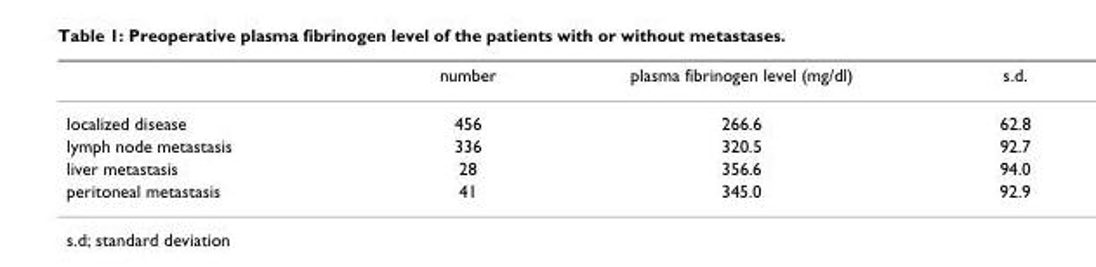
<table><thead><tr><td></td><td>number</td><td>plasma fibrinogen level (mg/dl)</td><td>s.d.</td></tr></thead><tbody><tr><td>localized disease</td><td>456</td><td>266.6</td><td>62.8</td></tr><tr><td>lymph node metastasis</td><td>336</td><td>320.5</td><td>92.7</td></tr><tr><td>liver metastasis</td><td>28</td><td>356.6</td><td>94.0</td></tr><tr><td>peritoneal metastasis</td><td>41</td><td>345.0</td><td>92.9</td></tr></tbody></table>